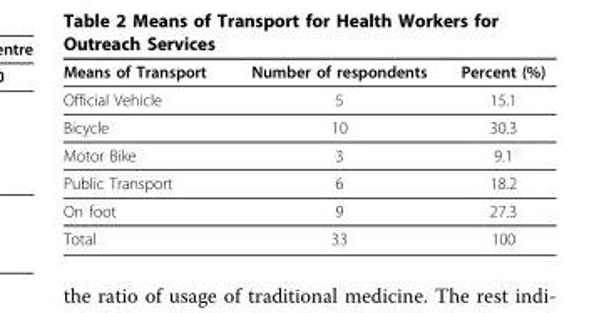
<table><thead><tr><td>Means of Transport</td><td>Number of respondents</td><td>Percent (%)</td></tr></thead><tbody><tr><td>Official Vehicle</td><td>5</td><td>15.1</td></tr><tr><td>Bicycle</td><td>10</td><td>30.3</td></tr><tr><td>Motor Bike</td><td>3</td><td>9.1</td></tr><tr><td>Public Transport</td><td>6</td><td>18.2</td></tr><tr><td>On foot</td><td>9</td><td>27.3</td></tr><tr><td>Total</td><td>33</td><td>100</td></tr></tbody></table>